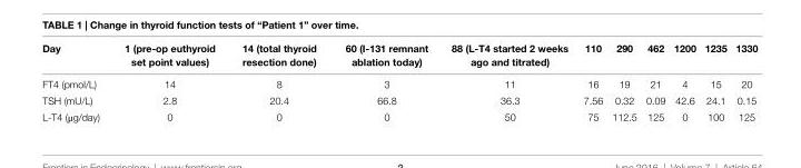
<table><thead><tr><td>Day</td><td>1 (pre-op euthyroid set point values)</td><td>14 (total thyroid resection done)</td><td>60 (i-131 remnant ablation today)</td><td>88 (L-T4 started 2 weeks ago and titrated)</td><td>110</td><td>290</td><td>462</td><td>1200</td><td>1235</td><td>1330</td></tr></thead><tbody><tr><td>FT4 (pmol/L)</td><td>14</td><td>8</td><td>3</td><td>11</td><td>16</td><td>19</td><td>21</td><td>4</td><td>15</td><td>20</td></tr><tr><td>TSH (mU/L)</td><td>2.8</td><td>20.4</td><td>66.8</td><td>36.3</td><td>7.56</td><td>0.32</td><td>0.09</td><td>42.6</td><td>24.1</td><td>0.15</td></tr><tr><td>L-T4 (μg/day)</td><td>0</td><td>0</td><td>0</td><td>50</td><td>75</td><td>112.5</td><td>125</td><td>0</td><td>100</td><td>125</td></tr></tbody></table>